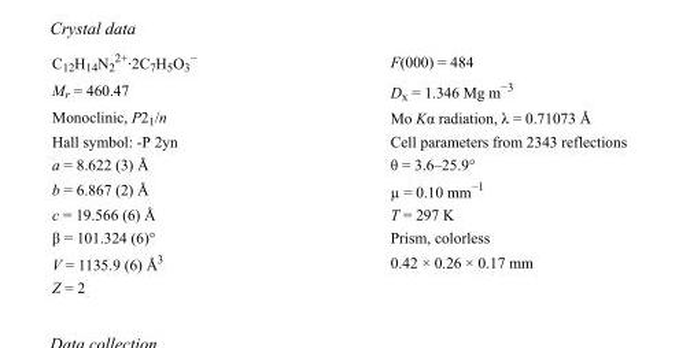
<table><tbody><tr><td>C<sub>12</sub>H<sub>14</sub>N<sub>2</sub> <sup>2+</sup>·2C<sub>7</sub>H<sub>5</sub>O<sub>3</sub> <sup>−</sup></td><td>F(000) = 484</td></tr><tr><td>M<sub>r</sub> = 460.47</td><td>D<sub>x</sub> = 1.346 Mg m<sup>−3</sup></td></tr><tr><td>Monoclinic, P2<sub>1</sub>/n</td><td>Mo Kα radiation, λ = 0.71073 Å</td></tr><tr><td>Hall symbol: -P 2yn</td><td>Cell parameters from 2343 reflections</td></tr><tr><td>a = 8.622 (3) Å</td><td>θ = 3.6–25.9°</td></tr><tr><td>b = 6.867 (2) Å</td><td>µ = 0.10 mm<sup>−1</sup></td></tr><tr><td>c = 19.566 (6) Å</td><td>T = 297 K</td></tr><tr><td>β = 101.324 (6)°</td><td>Prism, colorless</td></tr><tr><td>V = 1135.9 (6) Å<sup>3</sup></td><td>0.42 × 0.26 × 0.17 mm</td></tr><tr><td>Z = 2</td><td></td></tr></tbody></table>